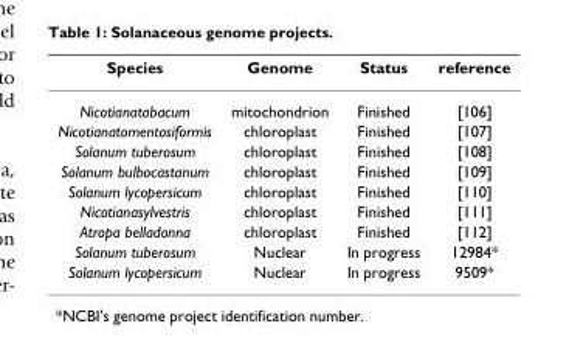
<table><thead><tr><td>Species</td><td>Genome</td><td>Status</td><td>reference</td></tr></thead><tbody><tr><td>Nicotianatabacum</td><td>mitochondrion</td><td>Finished</td><td>[106]</td></tr><tr><td>Nicotianatomentosiformis</td><td>chloroplast</td><td>Finished</td><td>[107]</td></tr><tr><td>Solanum tuberosum</td><td>chloroplast</td><td>Finished</td><td>[108]</td></tr><tr><td>Solanum bulbocastanum</td><td>chloroplast</td><td>Finished</td><td>[109]</td></tr><tr><td>Solanum lycopersicum</td><td>chloroplast</td><td>Finished</td><td>[110]</td></tr><tr><td>Nicotianasylvestris</td><td>chloroplast</td><td>Finished</td><td>[111]</td></tr><tr><td>Atropa belladonna</td><td>chloroplast</td><td>Finished</td><td>[112]</td></tr><tr><td>Solanum tuberosum</td><td>Nuclear</td><td>In progress</td><td>12984*</td></tr><tr><td>Solanum lycopersicum</td><td>Nuclear</td><td>In progress</td><td>9509*</td></tr></tbody></table>